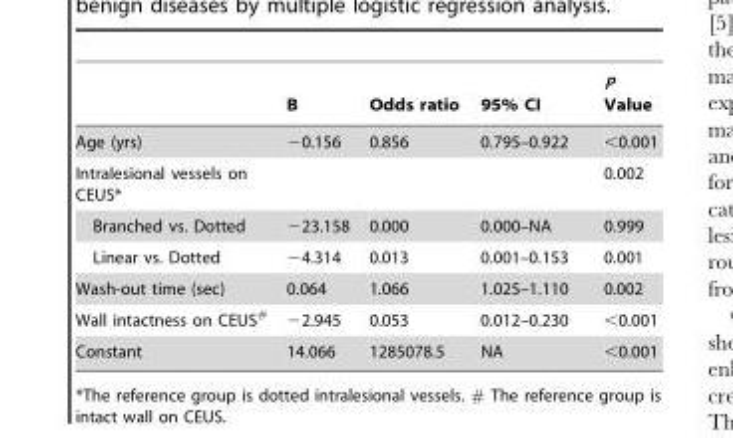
<table><thead><tr><td></td><td>B</td><td>Odds ratio</td><td>95% CI</td><td>P Value</td></tr></thead><tbody><tr><td>Age (yrs)</td><td>−0.156</td><td>0.856</td><td>0.795–0.922</td><td>&lt;0.001</td></tr><tr><td>Intralesional vessels on CEUS*</td><td></td><td></td><td></td><td>0.002</td></tr><tr><td>Branched vs. Dotted</td><td>−23.158</td><td>0.000</td><td>0.000–NA</td><td>0.999</td></tr><tr><td>Linear vs. Dotted</td><td>−4.314</td><td>0.013</td><td>0.001–0.153</td><td>0.001</td></tr><tr><td>Wash-out time (sec)</td><td>0.064</td><td>1.066</td><td>1.025–1.110</td><td>0.002</td></tr><tr><td>Wall intactness on CEUS<sup>#</sup></td><td>−2.945</td><td>0.053</td><td>0.012–0.230</td><td>&lt;0.001</td></tr><tr><td>Constant</td><td>14.066</td><td>1285078.5</td><td>NA</td><td>&lt;0.001</td></tr></tbody></table>